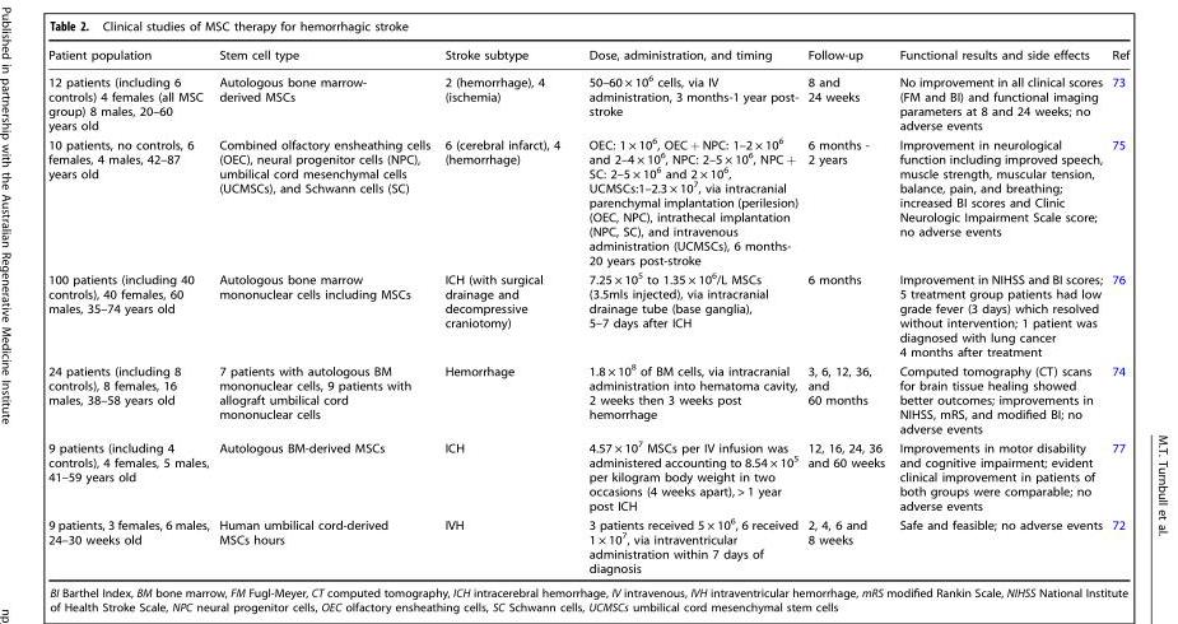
<table><thead><tr><td>Patient population</td><td>Stem cell type</td><td>Stroke subtype</td><td>Dose, administration, and timing</td><td>Follow-up</td><td>Functional results and side effects</td><td>Ref</td></tr></thead><tbody><tr><td>12 patients (including 6 controls) 4 females (all MSC group) 8 males, 20–60 years old</td><td>Autologous bone marrow- derived MSCs</td><td>2 (hemorrhage), 4 (ischemia)</td><td>50–60 × 10<sup>6</sup> cells, via IV administration, 3 months-1 year post- stroke</td><td>8 and 24 weeks</td><td>No improvement in all clinical scores (FM and BI) and functional imaging parameters at 8 and 24 weeks; no adverse events</td><td>73</td></tr><tr><td>10 patients, no controls, 6 females, 4 males, 42–87 years old</td><td>Combined olfactory ensheathing cells (OEC), neural progenitor cells (NPC), umbilical cord mesenchymal cells (UCMSCs), and Schwann cells (SC)</td><td>6 (cerebral infarct), 4 (hemorrhage)</td><td>OEC: 1 × 10<sup>6</sup>, OEC + NPC: 1–2 × 10<sup>6</sup> and 2–4 × 10<sup>6</sup>, NPC: 2–5 × 10<sup>6</sup>, NPC + SC: 2–5 × 10<sup>6</sup> and 2 × 10<sup>6</sup>, UCMSCs:1–2.3 × 10<sup>7</sup>, via intracranial parenchymal implantation (perilesion) (OEC, NPC), intrathecal implantation (NPC, SC), and intravenous administration (UCMSCs), 6 months- 20 years post-stroke</td><td>6 months - 2 years</td><td>Improvement in neurological function including improved speech, muscle strength, muscular tension, balance, pain, and breathing; increased BI scores and Clinic Neurologic Impairment Scale score; no adverse events</td><td>75</td></tr><tr><td>100 patients (including 40 controls), 40 females, 60 males, 35–74 years old</td><td>Autologous bone marrow mononuclear cells including MSCs</td><td>ICH (with surgical drainage and decompressive craniotomy)</td><td>7.25 × 10<sup>5</sup> to 1.35 × 10<sup>6</sup>/L MSCs (3.5mls injected), via intracranial drainage tube (base ganglia), 5–7 days after ICH</td><td>6 months</td><td>Improvement in NIHSS and BI scores; 5 treatment group patients had low grade fever (3 days) which resolved without intervention; 1 patient was diagnosed with lung cancer 4 months after treatment</td><td>76</td></tr><tr><td>24 patients (including 8 controls), 8 females, 16 males, 38–58 years old</td><td>7 patients with autologous BM mononuclear cells, 9 patients with allograft umbilical cord mononuclear cells</td><td>Hemorrhage</td><td>1.8 × 10<sup>8</sup> of BM cells, via intracranial administration into hematoma cavity, 2 weeks then 3 weeks post hemorrhage</td><td>3, 6, 12, 36, and 60 months</td><td>Computed tomography (CT) scans for brain tissue healing showed better outcomes; improvements in NIHSS, mRS, and modified BI; no adverse events</td><td>74</td></tr><tr><td>9 patients (including 4 controls), 4 females, 5 males, 41–59 years old</td><td>Autologous BM-derived MSCs</td><td>ICH</td><td>4.57 × 10<sup>7</sup> MSCs per IV infusion was administered accounting to 8.54 × 10<sup>5</sup> per kilogram body weight in two occasions (4 weeks apart), &gt; 1 year post ICH</td><td>12, 16, 24, 36 and 60 weeks</td><td>Improvements in motor disability and cognitive impairment; evident clinical improvement in patients of both groups were comparable; no adverse events</td><td>77</td></tr><tr><td>9 patients, 3 females, 6 males, 24–30 weeks old</td><td>Human umbilical cord-derived MSCs hours</td><td>IVH</td><td>3 patients received 5 × 10<sup>6</sup>, 6 received 1 × 10<sup>7</sup>, via intraventricular administration within 7 days of diagnosis</td><td>2, 4, 6 and 8 weeks</td><td>Safe and feasible; no adverse events</td><td>72</td></tr></tbody></table>